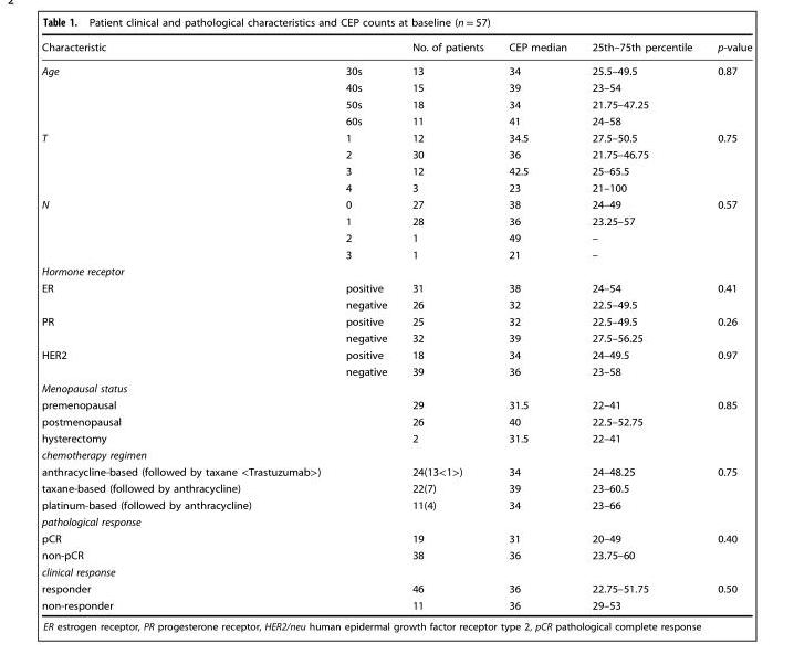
<table><thead><tr><td colspan="2">Characteristic</td><td rowspan="2">No. of patients 13</td><td rowspan="2">CEP median 34</td><td rowspan="2">25th–75th percentile 25.5–49.5</td><td rowspan="2">p-value 0.87</td></tr><tr><td>Age</td><td>30s</td></tr></thead><tbody><tr><td></td><td>40s</td><td>15</td><td>39</td><td>23–54</td><td></td></tr><tr><td></td><td>50s</td><td>18</td><td>34</td><td>21.75–47.25</td><td></td></tr><tr><td></td><td>60s</td><td>11</td><td>41</td><td>24–58</td><td></td></tr><tr><td rowspan="4">T</td><td>1</td><td>12</td><td>34.5</td><td>27.5–50.5</td><td>0.75</td></tr><tr><td>2</td><td>30</td><td>36</td><td>21.75–46.75</td><td></td></tr><tr><td>3</td><td>12</td><td>42.5</td><td>25–65.5</td><td></td></tr><tr><td>4</td><td>3</td><td>23</td><td>21–100</td><td></td></tr><tr><td rowspan="4">N</td><td>0</td><td>27</td><td>38</td><td>24–49</td><td>0.57</td></tr><tr><td>1</td><td>28</td><td>36</td><td>23.25–57</td><td></td></tr><tr><td>2</td><td>1</td><td>49</td><td>–</td><td></td></tr><tr><td>3</td><td>1</td><td>21</td><td>–</td><td></td></tr><tr><td colspan="6">Hormone receptor</td></tr><tr><td rowspan="2">ER</td><td>positive</td><td>31</td><td>38</td><td>24–54</td><td>0.41</td></tr><tr><td>negative</td><td>26</td><td>32</td><td>22.5–49.5</td><td></td></tr><tr><td rowspan="2">PR</td><td>positive</td><td>25</td><td>32</td><td>22.5–49.5</td><td>0.26</td></tr><tr><td>negative</td><td>32</td><td>39</td><td>27.5–56.25</td><td></td></tr><tr><td rowspan="2">HER2</td><td>positive</td><td>18</td><td>34</td><td>24–49.5</td><td>0.97</td></tr><tr><td>negative</td><td>39</td><td>36</td><td>23–58</td><td></td></tr><tr><td colspan="6">Menopausal status</td></tr><tr><td>premenopausal</td><td></td><td>29</td><td>31.5</td><td>22–41</td><td>0.85</td></tr><tr><td>postmenopausal</td><td></td><td>26</td><td>40</td><td>22.5–52.75</td><td></td></tr><tr><td>hysterectomy</td><td></td><td>2</td><td>31.5</td><td>22–41</td><td></td></tr><tr><td colspan="6">chemotherapy regimen</td></tr><tr><td>anthracycline-based (followed by taxane &lt;Trastuzumab&gt;)</td><td></td><td>24(13&lt;1&gt;)</td><td>34</td><td>24–48.25</td><td>0.75</td></tr><tr><td>taxane-based (followed by anthracycline)</td><td></td><td>22(7)</td><td>39</td><td>23–60.5</td><td></td></tr><tr><td>platinum-based (followed by anthracycline)</td><td></td><td>11(4)</td><td>34</td><td>23–66</td><td></td></tr><tr><td colspan="6">pathological response</td></tr><tr><td>pCR</td><td></td><td>19</td><td>31</td><td>20–49</td><td>0.40</td></tr><tr><td>non-pCR</td><td></td><td>38</td><td>36</td><td>23.75–60</td><td></td></tr><tr><td colspan="6">clinical response</td></tr><tr><td>responder</td><td></td><td>46</td><td>36</td><td>22.75–51.75</td><td>0.50</td></tr><tr><td>non-responder</td><td></td><td>11</td><td>36</td><td>29–53</td><td></td></tr></tbody></table>